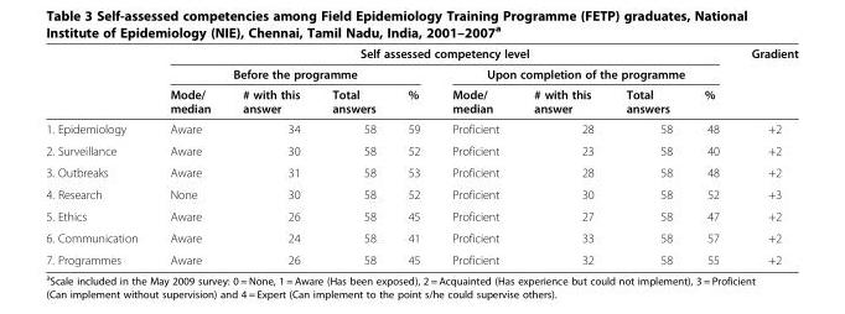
<table><thead><tr><td rowspan="3"></td><td colspan="8">Self assessed competency level</td><td rowspan="3">Gradient</td></tr><tr><td colspan="4">Before the programme</td><td colspan="4">Upon completion of the programme</td></tr><tr><td>Mode/ median</td><td># with this answer</td><td>Total answers</td><td>%</td><td>Mode/ median</td><td># with this answer</td><td>Total answers</td><td>%</td></tr></thead><tbody><tr><td>1. Epidemiology</td><td>Aware</td><td>34</td><td>58</td><td>59</td><td>Proficient</td><td>28</td><td>58</td><td>48</td><td>+2</td></tr><tr><td>2. Surveillance</td><td>Aware</td><td>30</td><td>58</td><td>52</td><td>Proficient</td><td>23</td><td>58</td><td>40</td><td>+2</td></tr><tr><td>3. Outbreaks</td><td>Aware</td><td>31</td><td>58</td><td>53</td><td>Proficient</td><td>28</td><td>58</td><td>48</td><td>+2</td></tr><tr><td>4. Research</td><td>None</td><td>30</td><td>58</td><td>52</td><td>Proficient</td><td>30</td><td>58</td><td>52</td><td>+3</td></tr><tr><td>5. Ethics</td><td>Aware</td><td>26</td><td>58</td><td>45</td><td>Proficient</td><td>27</td><td>58</td><td>47</td><td>+2</td></tr><tr><td>6. Communication</td><td>Aware</td><td>24</td><td>58</td><td>41</td><td>Proficient</td><td>33</td><td>58</td><td>57</td><td>+2</td></tr><tr><td>7. Programmes</td><td>Aware</td><td>26</td><td>58</td><td>45</td><td>Proficient</td><td>32</td><td>58</td><td>55</td><td>+2</td></tr></tbody></table>